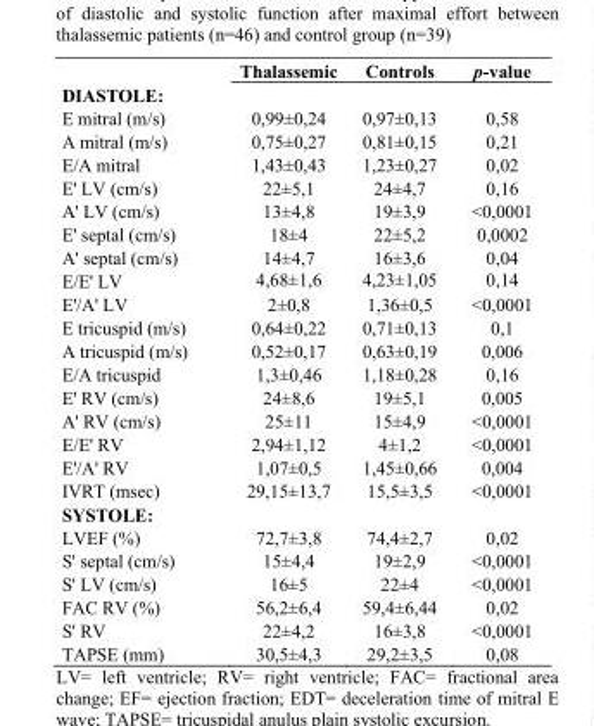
<table><thead><tr><td></td><td>Thalassemic</td><td>Controls</td><td>p-value</td></tr></thead><tbody><tr><td colspan="4">DIASTOLE:</td></tr><tr><td>E mitral (m/s)</td><td>0,99±0,24</td><td>0,97±0,13</td><td>0,58</td></tr><tr><td>A mitral (m/s)</td><td>0,75±0,27</td><td>0,81±0,15</td><td>0,21</td></tr><tr><td>E/A mitral</td><td>1,43±0,43</td><td>1,23±0,27</td><td>0,02</td></tr><tr><td>E&#x27; LV (cm/s)</td><td>22±5,1</td><td>24±4,7</td><td>0,16</td></tr><tr><td>A&#x27; LV (cm/s)</td><td>13±4,8</td><td>19±3,9</td><td>&lt;0,0001</td></tr><tr><td>E&#x27; septal (cm/s)</td><td>18±4</td><td>22±5,2</td><td>0,0002</td></tr><tr><td>A&#x27; septal (cm/s)</td><td>14±4,7</td><td>16±3,6</td><td>0,04</td></tr><tr><td>E/E&#x27; LV</td><td>4,68±1,6</td><td>4,23±1,05</td><td>0,14</td></tr><tr><td>E&#x27;/A&#x27; LV</td><td>2±0,8</td><td>1,36±0,5</td><td>&lt;0,0001</td></tr><tr><td>E tricuspid (m/s)</td><td>0,64±0,22</td><td>0,71±0,13</td><td>0,1</td></tr><tr><td>A tricuspid (m/s)</td><td>0,52±0,17</td><td>0,63±0,19</td><td>0,006</td></tr><tr><td>E/A tricuspid</td><td>1,3±0,46</td><td>1,18±0,28</td><td>0,16</td></tr><tr><td>E&#x27; RV (cm/s)</td><td>24±8,6</td><td>19±5,1</td><td>0,005</td></tr><tr><td>A&#x27; RV (cm/s)</td><td>25±11</td><td>15±4,9</td><td>&lt;0,0001</td></tr><tr><td>E/E&#x27; RV</td><td>2,94±1,12</td><td>4±1,2</td><td>&lt;0,0001</td></tr><tr><td>E&#x27;/A&#x27; RV</td><td>1,07±0,5</td><td>1,45±0,66</td><td>0,004</td></tr><tr><td>IVRT (msec)</td><td>29,15±13,7</td><td>15,5±3,5</td><td>&lt;0,0001</td></tr><tr><td colspan="4">SYSTOLE:</td></tr><tr><td>LVEF (%)</td><td>72,7±3,8</td><td>74,4±2,7</td><td>0,02</td></tr><tr><td>S&#x27; septal (cm/s)</td><td>15±4,4</td><td>19±2,9</td><td>&lt;0,0001</td></tr><tr><td>S&#x27; LV (cm/s)</td><td>16±5</td><td>22±4</td><td>&lt;0,0001</td></tr><tr><td>FAC RV (%)</td><td>56,2±6,4</td><td>59,4±6,44</td><td>0,02</td></tr><tr><td>S&#x27; RV</td><td>22±4,2</td><td>16±3,8</td><td>&lt;0,0001</td></tr><tr><td>TAPSE (mm)</td><td>30,5±4,3</td><td>29,2±3,5</td><td>0,08</td></tr></tbody></table>